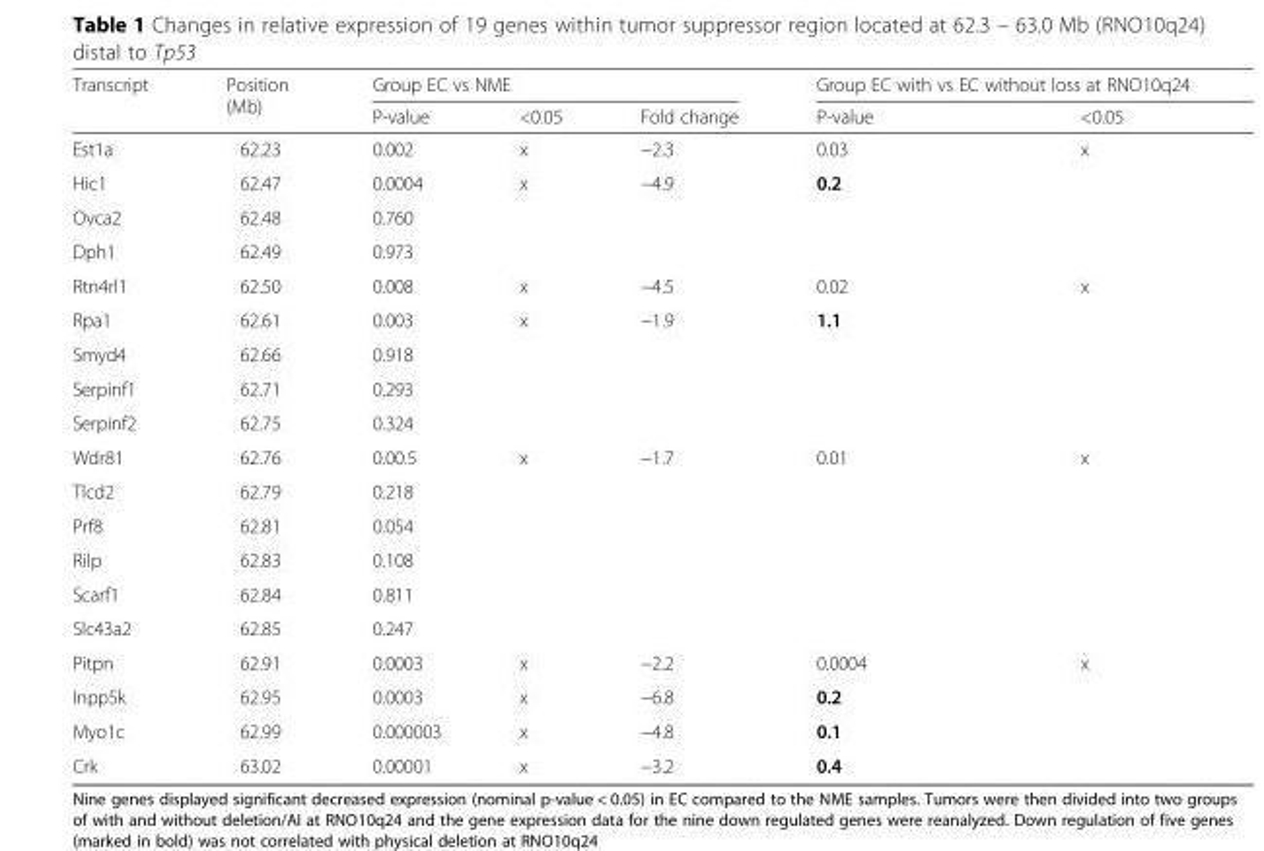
<table><thead><tr><td rowspan="2">Transcript</td><td rowspan="2">Position (Mb)</td><td colspan="3">Group EC vs NME</td><td colspan="2">Group EC with vs EC without loss at RNO10q24</td></tr><tr><td>P-value</td><td>&lt;0.05</td><td>Fold change</td><td>P-value</td><td>&lt;0.05</td></tr></thead><tbody><tr><td>Est1a</td><td>62.23</td><td>0.002</td><td>x</td><td>−2.3</td><td>0.03</td><td>x</td></tr><tr><td>Hic1</td><td>62.47</td><td>0.0004</td><td>x</td><td>−4.9</td><td>0.2</td><td></td></tr><tr><td>Ovca2</td><td>62.48</td><td>0.760</td><td></td><td></td><td></td><td></td></tr><tr><td>Dph1</td><td>62.49</td><td>0.973</td><td></td><td></td><td></td><td></td></tr><tr><td>Rtn4rl1</td><td>62.50</td><td>0.008</td><td>x</td><td>−4.5</td><td>0.02</td><td>x</td></tr><tr><td>Rpa1</td><td>62.61</td><td>0.003</td><td>x</td><td>−1.9</td><td>1.1</td><td></td></tr><tr><td>Smyd4</td><td>62.66</td><td>0.918</td><td></td><td></td><td></td><td></td></tr><tr><td>Serpinf1</td><td>62.71</td><td>0.293</td><td></td><td></td><td></td><td></td></tr><tr><td>Serpinf2</td><td>62.75</td><td>0.324</td><td></td><td></td><td></td><td></td></tr><tr><td>Wdr81</td><td>62.76</td><td>0.00.5</td><td>x</td><td>−1.7</td><td>0.01</td><td>x</td></tr><tr><td>Tlcd2</td><td>62.79</td><td>0.218</td><td></td><td></td><td></td><td></td></tr><tr><td>Prf8</td><td>62.81</td><td>0.054</td><td></td><td></td><td></td><td></td></tr><tr><td>Rilp</td><td>62.83</td><td>0.108</td><td></td><td></td><td></td><td></td></tr><tr><td>Scarf1</td><td>62.84</td><td>0.811</td><td></td><td></td><td></td><td></td></tr><tr><td>Slc43a2</td><td>62.85</td><td>0.247</td><td></td><td></td><td></td><td></td></tr><tr><td>Pitpn</td><td>62.91</td><td>0.0003</td><td>x</td><td>−2.2</td><td>0.0004</td><td>x</td></tr><tr><td>Inpp5k</td><td>62.95</td><td>0.0003</td><td>x</td><td>−6.8</td><td>0.2</td><td></td></tr><tr><td>Myo1c</td><td>62.99</td><td>0.000003</td><td>x</td><td>−4.8</td><td>0.1</td><td></td></tr><tr><td>Crk</td><td>63.02</td><td>0.00001</td><td>x</td><td>−3.2</td><td>0.4</td><td></td></tr></tbody></table>